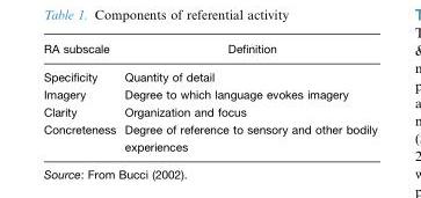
<table><thead><tr><td>RA subscale</td><td>Definition</td></tr></thead><tbody><tr><td>Specificity</td><td>Quantity of detail</td></tr><tr><td>Imagery</td><td>Degree to which language evokes imagery</td></tr><tr><td>Clarity</td><td>Organization and focus</td></tr><tr><td>Concreteness</td><td>Degree of reference to sensory and other bodily experiences</td></tr></tbody></table>